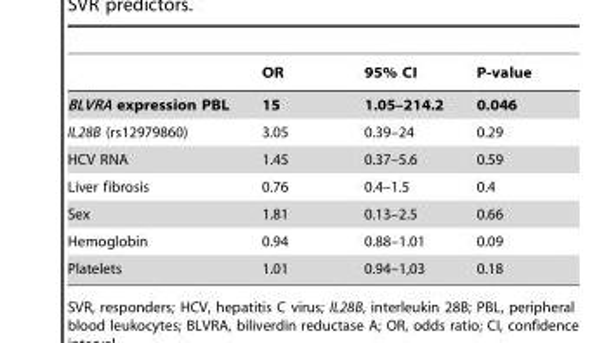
<table><thead><tr><td></td><td>OR</td><td>95% CI</td><td>P-value</td></tr></thead><tbody><tr><td>BLVRA expression PBL</td><td>15</td><td>1.05–214.2</td><td>0.046</td></tr><tr><td>IL28B (rs12979860)</td><td>3.05</td><td>0.39–24</td><td>0.29</td></tr><tr><td>HCV RNA</td><td>1.45</td><td>0.37–5.6</td><td>0.59</td></tr><tr><td>Liver fibrosis</td><td>0.76</td><td>0.4–1.5</td><td>0.4</td></tr><tr><td>Sex</td><td>1.81</td><td>0.13–2.5</td><td>0.66</td></tr><tr><td>Hemoglobin</td><td>0.94</td><td>0.88–1.01</td><td>0.09</td></tr><tr><td>Platelets</td><td>1.01</td><td>0.94–1,03</td><td>0.18</td></tr></tbody></table>